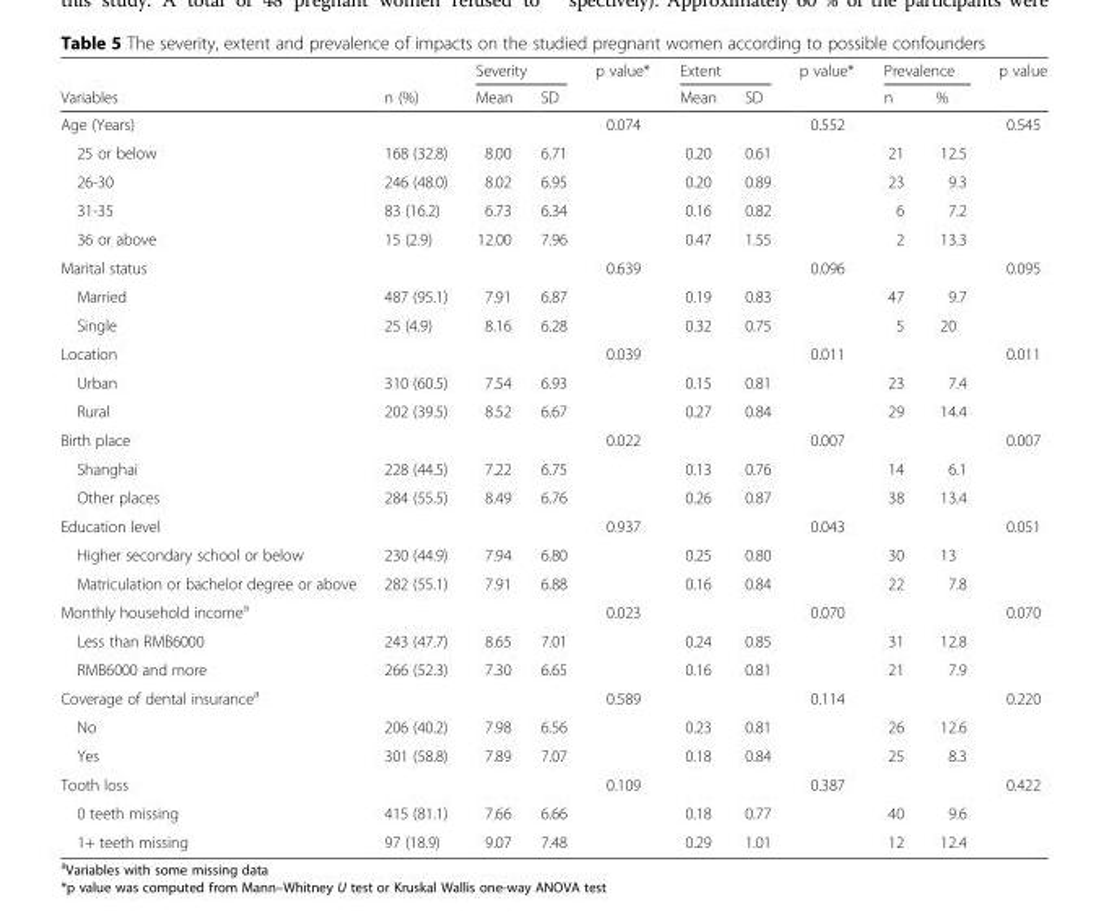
<table><thead><tr><td rowspan="2">Variables</td><td rowspan="2">n (%)</td><td colspan="2">Severity</td><td rowspan="2">p value*</td><td colspan="2">Extent</td><td rowspan="2">p value*</td><td colspan="2">Prevalence</td><td rowspan="2">p value</td></tr><tr><td>Mean</td><td>SD</td><td>Mean</td><td>SD</td><td>n</td><td>%</td></tr></thead><tbody><tr><td>Age (Years)</td><td></td><td></td><td></td><td>0.074</td><td></td><td></td><td>0.552</td><td></td><td></td><td>0.545</td></tr><tr><td>25 or below</td><td>168 (32.8)</td><td>8.00</td><td>6.71</td><td></td><td>0.20</td><td>0.61</td><td></td><td>21</td><td>12.5</td><td></td></tr><tr><td>26-30</td><td>246 (48.0)</td><td>8.02</td><td>6.95</td><td></td><td>0.20</td><td>0.89</td><td></td><td>23</td><td>9.3</td><td></td></tr><tr><td>31-35</td><td>83 (16.2)</td><td>6.73</td><td>6.34</td><td></td><td>0.16</td><td>0.82</td><td></td><td>6</td><td>7.2</td><td></td></tr><tr><td>36 or above</td><td>15 (2.9)</td><td>12.00</td><td>7.96</td><td></td><td>0.47</td><td>1.55</td><td></td><td>2</td><td>13.3</td><td></td></tr><tr><td>Marital status</td><td></td><td></td><td></td><td>0.639</td><td></td><td></td><td>0.096</td><td></td><td></td><td>0.095</td></tr><tr><td>Married</td><td>487 (95.1)</td><td>7.91</td><td>6.87</td><td></td><td>0.19</td><td>0.83</td><td></td><td>47</td><td>9.7</td><td></td></tr><tr><td>Single</td><td>25 (4.9)</td><td>8.16</td><td>6.28</td><td></td><td>0.32</td><td>0.75</td><td></td><td>5</td><td>20</td><td></td></tr><tr><td>Location</td><td></td><td></td><td></td><td>0.039</td><td></td><td></td><td>0.011</td><td></td><td></td><td>0.011</td></tr><tr><td>Urban</td><td>310 (60.5)</td><td>7.54</td><td>6.93</td><td></td><td>0.15</td><td>0.81</td><td></td><td>23</td><td>7.4</td><td></td></tr><tr><td>Rural</td><td>202 (39.5)</td><td>8.52</td><td>6.67</td><td></td><td>0.27</td><td>0.84</td><td></td><td>29</td><td>14.4</td><td></td></tr><tr><td>Birth place</td><td></td><td></td><td></td><td>0.022</td><td></td><td></td><td>0.007</td><td></td><td></td><td>0.007</td></tr><tr><td>Shanghai</td><td>228 (44.5)</td><td>7.22</td><td>6.75</td><td></td><td>0.13</td><td>0.76</td><td></td><td>14</td><td>6.1</td><td></td></tr><tr><td>Other places</td><td>284 (55.5)</td><td>8.49</td><td>6.76</td><td></td><td>0.26</td><td>0.87</td><td></td><td>38</td><td>13.4</td><td></td></tr><tr><td>Education level</td><td></td><td></td><td></td><td>0.937</td><td></td><td></td><td>0.043</td><td></td><td></td><td>0.051</td></tr><tr><td>Higher secondary school or below</td><td>230 (44.9)</td><td>7.94</td><td>6.80</td><td></td><td>0.25</td><td>0.80</td><td></td><td>30</td><td>13</td><td></td></tr><tr><td>Matriculation or bachelor degree or above</td><td>282 (55.1)</td><td>7.91</td><td>6.88</td><td></td><td>0.16</td><td>0.84</td><td></td><td>22</td><td>7.8</td><td></td></tr><tr><td>Monthly household income<sup>a</sup></td><td></td><td></td><td></td><td>0.023</td><td></td><td></td><td>0.070</td><td></td><td></td><td>0.070</td></tr><tr><td>Less than RMB6000</td><td>243 (47.7)</td><td>8.65</td><td>7.01</td><td></td><td>0.24</td><td>0.85</td><td></td><td>31</td><td>12.8</td><td></td></tr><tr><td>RMB6000 and more</td><td>266 (52.3)</td><td>7.30</td><td>6.65</td><td></td><td>0.16</td><td>0.81</td><td></td><td>21</td><td>7.9</td><td></td></tr><tr><td>Coverage of dental insurance<sup>a</sup></td><td></td><td></td><td></td><td>0.589</td><td></td><td></td><td>0.114</td><td></td><td></td><td>0.220</td></tr><tr><td>No</td><td>206 (40.2)</td><td>7.98</td><td>6.56</td><td></td><td>0.23</td><td>0.81</td><td></td><td>26</td><td>12.6</td><td></td></tr><tr><td>Yes</td><td>301 (58.8)</td><td>7.89</td><td>7.07</td><td></td><td>0.18</td><td>0.84</td><td></td><td>25</td><td>8.3</td><td></td></tr><tr><td>Tooth loss</td><td></td><td></td><td></td><td>0.109</td><td></td><td></td><td>0.387</td><td></td><td></td><td>0.422</td></tr><tr><td>0 teeth missing</td><td>415 (81.1)</td><td>7.66</td><td>6.66</td><td></td><td>0.18</td><td>0.77</td><td></td><td>40</td><td>9.6</td><td></td></tr><tr><td>1+ teeth missing</td><td>97 (18.9)</td><td>9.07</td><td>7.48</td><td></td><td>0.29</td><td>1.01</td><td></td><td>12</td><td>12.4</td><td></td></tr></tbody></table>